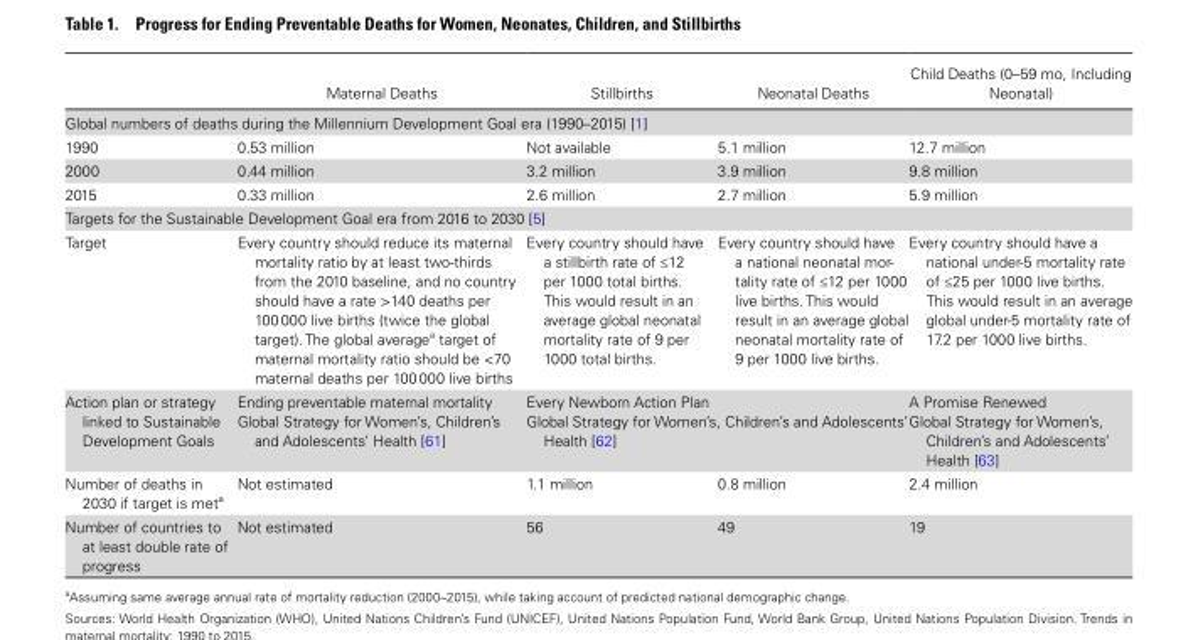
<table><thead><tr><td></td><td>Maternal Deaths</td><td>Stillbirths</td><td>Neonatal Deaths</td><td>Child Deaths (0–59 mo, Including Neonatal)</td></tr></thead><tbody><tr><td colspan="5">Global numbers of deaths during the Millennium Development Goal era (1990–2015) [1]</td></tr><tr><td>1990</td><td>0.53 million</td><td>Not available</td><td>5.1 million</td><td>12.7 million</td></tr><tr><td>2000</td><td>0.44 million</td><td>3.2 million</td><td>3.9 million</td><td>9.8 million</td></tr><tr><td>2015</td><td>0.33 million</td><td>2.6 million</td><td>2.7 million</td><td>5.9 million</td></tr><tr><td colspan="5">Targets for the Sustainable Development Goal era from 2016 to 2030 [5]</td></tr><tr><td>Target</td><td>Every country should reduce its maternal mortality ratio by at least two-thirds from the 2010 baseline, and no country should have a rate &gt;140 deaths per 100 000 live births (twice the global target). The global average<sup>a</sup> target of maternal mortality ratio should be &lt;70 maternal deaths per 100 000 live births</td><td>Every country should have a stillbirth rate of ≤12 per 1000 total births. This would result in an average global neonatal mortality rate of 9 per 1000 total births.</td><td>Every country should have a national neonatal mor- tality rate of ≤12 per 1000 live births. This would result in an average global neonatal mortality rate of 9 per 1000 live births.</td><td>Every country should have a national under-5 mortality rate of ≤25 per 1000 live births. This would result in an average global under-5 mortality rate of 17.2 per 1000 live births.</td></tr><tr><td>Action plan or strategy linked to Sustainable Development Goals</td><td>Ending preventable maternal mortality Global Strategy for Women’s, Children’s and Adolescents’ Health [61]</td><td colspan="2">Every Newborn Action Plan Global Strategy for Women’s, Children’s and Adolescents’ Health [62]</td><td>A Promise Renewed Global Strategy for Women’s, Children’s and Adolescents’ Health [63]</td></tr><tr><td>Number of deaths in 2030 if target is met<sup>a</sup></td><td>Not estimated</td><td>1.1 million</td><td>0.8 million</td><td>2.4 million</td></tr><tr><td>Number of countries to at least double rate of progress</td><td>Not estimated</td><td>56</td><td>49</td><td>19</td></tr></tbody></table>